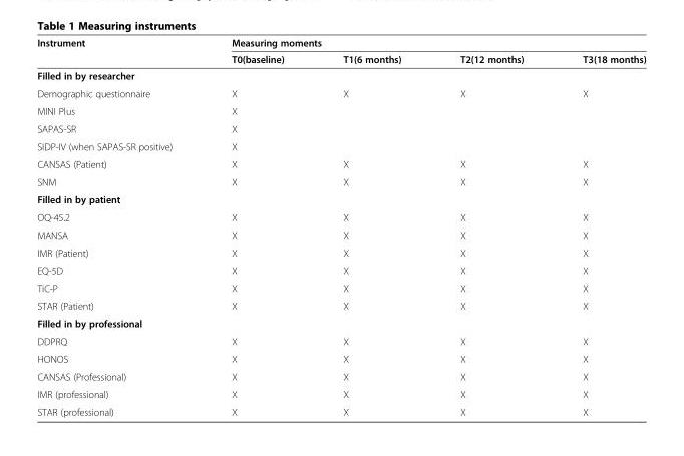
<table><thead><tr><td rowspan="2">Instrument</td><td colspan="4">Measuring moments</td></tr><tr><td>T0(baseline)</td><td>T1(6 months)</td><td>T2(12 months)</td><td>T3(18 months)</td></tr></thead><tbody><tr><td colspan="5">Filled in by researcher</td></tr><tr><td>Demographic questionnaire</td><td>X</td><td>X</td><td>X</td><td>X</td></tr><tr><td>MINI Plus</td><td>X</td><td></td><td></td><td></td></tr><tr><td>SAPAS-SR</td><td>X</td><td></td><td></td><td></td></tr><tr><td>SIDP-IV (when SAPAS-SR positive)</td><td>X</td><td></td><td></td><td></td></tr><tr><td>CANSAS (Patient)</td><td>X</td><td>X</td><td>X</td><td>X</td></tr><tr><td>SNM</td><td>X</td><td>X</td><td>X</td><td>X</td></tr><tr><td colspan="5">Filled in by patient</td></tr><tr><td>OQ-45.2</td><td>X</td><td>X</td><td>X</td><td>X</td></tr><tr><td>MANSA</td><td>X</td><td>X</td><td>X</td><td>X</td></tr><tr><td>IMR (Patient)</td><td>X</td><td>X</td><td>X</td><td>X</td></tr><tr><td>EQ-5D</td><td>X</td><td>X</td><td>X</td><td>X</td></tr><tr><td>TiC-P</td><td>X</td><td>X</td><td>X</td><td>X</td></tr><tr><td>STAR (Patient)</td><td>X</td><td>X</td><td>X</td><td>X</td></tr><tr><td colspan="5">Filled in by professional</td></tr><tr><td>DDPRQ</td><td>X</td><td>X</td><td>X</td><td>X</td></tr><tr><td>HONOS</td><td>X</td><td>X</td><td>X</td><td>X</td></tr><tr><td>CANSAS (Professional)</td><td>X</td><td>X</td><td>X</td><td>X</td></tr><tr><td>IMR (professional)</td><td>X</td><td>X</td><td>X</td><td>X</td></tr><tr><td>STAR (professional)</td><td>X</td><td>X</td><td>X</td><td>X</td></tr></tbody></table>